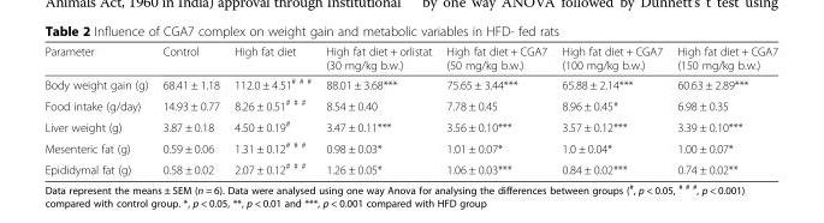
<table><thead><tr><td>Parameter</td><td>Control</td><td>High fat diet</td><td>High fat diet + orlistat (30 mg/kg b.w.)</td><td>High fat diet + CGA7 (50 mg/kg b.w.)</td><td>High fat diet + CGA7 (100 mg/kg b.w.)</td><td>High fat diet + CGA7 (150 mg/kg b.w.)</td></tr></thead><tbody><tr><td>Body weight gain (g)</td><td>68.41 ± 1.18</td><td>112.0 ± 4.51<sup># # #</sup></td><td>88.01 ± 3.68***</td><td>75.65 ± 3.44***</td><td>65.88 ± 2.14***</td><td>60.63 ± 2.89***</td></tr><tr><td>Food intake (g/day)</td><td>14.93 ± 0.77</td><td>8.26 ± 0.51<sup># # #</sup></td><td>8.54 ± 0.40</td><td>7.78 ± 0.45</td><td>8.96 ± 0.45*</td><td>6.98 ± 0.35</td></tr><tr><td>Liver weight (g)</td><td>3.87 ± 0.18</td><td>4.50 ± 0.19<sup>#</sup></td><td>3.47 ± 0.11***</td><td>3.56 ± 0.10***</td><td>3.57 ± 0.12***</td><td>3.39 ± 0.10***</td></tr><tr><td>Mesenteric fat (g)</td><td>0.59 ± 0.06</td><td>1.31 ± 0.12<sup># # #</sup></td><td>0.98 ± 0.03*</td><td>1.01 ± 0.07*</td><td>1.0 ± 0.04*</td><td>1.00 ± 0.07*</td></tr><tr><td>Epididymal fat (g)</td><td>0.58 ± 0.02</td><td>2.07 ± 0.12<sup># # #</sup></td><td>1.26 ± 0.05*</td><td>1.06 ± 0.03***</td><td>0.84 ± 0.02***</td><td>0.74 ± 0.02**</td></tr></tbody></table>